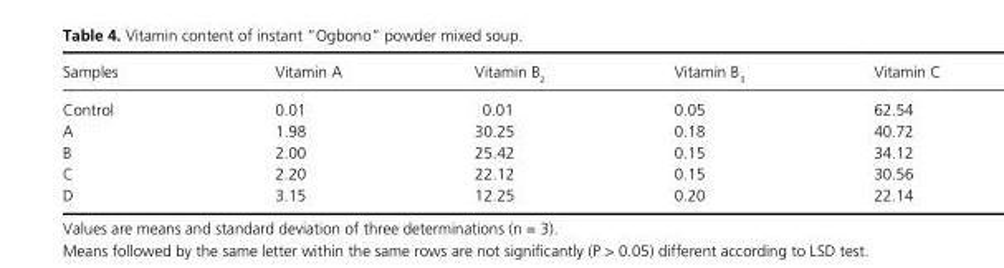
<table><thead><tr><td>Samples</td><td>Vitamin A</td><td>Vitamin B <sub>2</sub></td><td>Vitamin B <sub>3</sub></td><td>Vitamin C</td></tr></thead><tbody><tr><td>Control</td><td>0.01</td><td>0.01</td><td>0.05</td><td>62.54</td></tr><tr><td>A</td><td>1.98</td><td>30.25</td><td>0.18</td><td>40.72</td></tr><tr><td>B</td><td>2.00</td><td>25.42</td><td>0.15</td><td>34.12</td></tr><tr><td>C</td><td>2.20</td><td>22.12</td><td>0.15</td><td>30.56</td></tr><tr><td>D</td><td>3.15</td><td>12.25</td><td>0.20</td><td>22.14</td></tr></tbody></table>